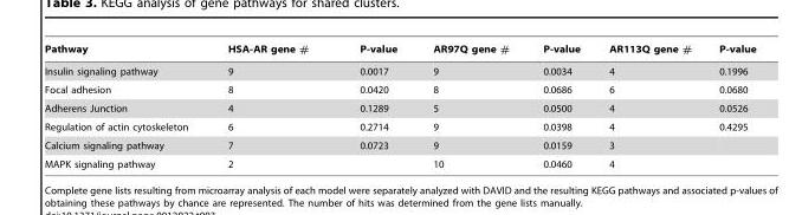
<table><thead><tr><td>Pathway</td><td>HSA-AR gene #</td><td>P-value</td><td>AR97Q gene #</td><td>P-value</td><td>AR113Q gene #</td><td>P-value</td></tr></thead><tbody><tr><td>Insulin signaling pathway</td><td>9</td><td>0.0017</td><td>9</td><td>0.0034</td><td>4</td><td>0.1996</td></tr><tr><td>Focal adhesion</td><td>8</td><td>0.0420</td><td>8</td><td>0.0686</td><td>6</td><td>0.0680</td></tr><tr><td>Adherens Junction</td><td>4</td><td>0.1289</td><td>5</td><td>0.0500</td><td>4</td><td>0.0526</td></tr><tr><td>Regulation of actin cytoskeleton</td><td>6</td><td>0.2714</td><td>9</td><td>0.0398</td><td>4</td><td>0.4295</td></tr><tr><td>Calcium signaling pathway</td><td>7</td><td>0.0723</td><td>9</td><td>0.0159</td><td>3</td><td></td></tr><tr><td>MAPK signaling pathway</td><td>2</td><td></td><td>10</td><td>0.0460</td><td>4</td><td></td></tr></tbody></table>